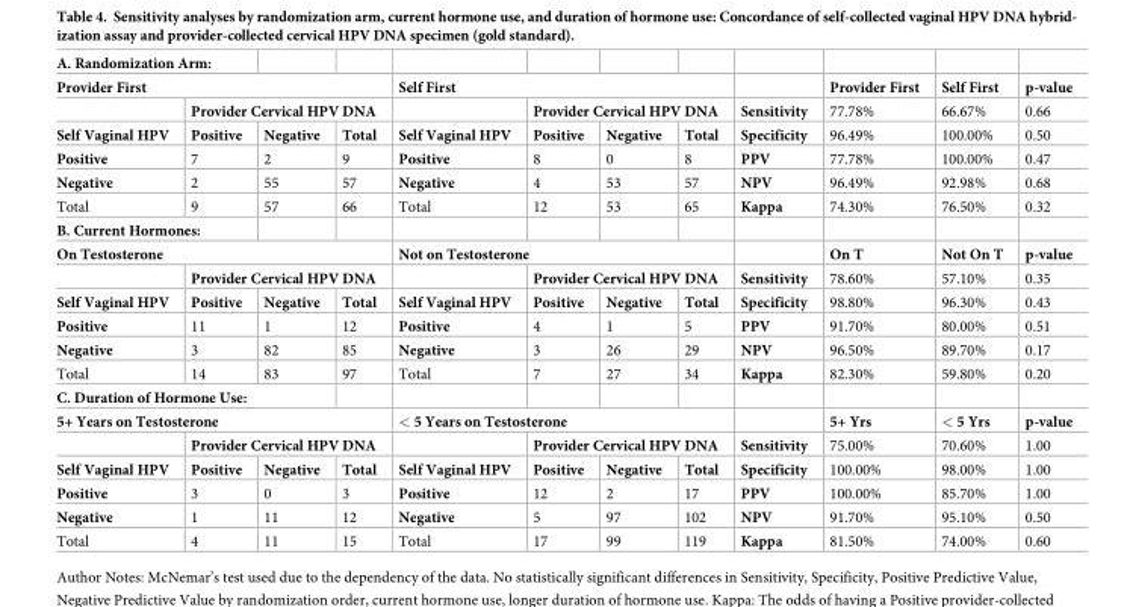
<table><tbody><tr><td colspan="12">A. Randomization Arm:</td></tr><tr><td colspan="4">Provider First</td><td colspan="4">Self First</td><td></td><td>Provider First</td><td>Self First</td><td>p-value</td></tr><tr><td></td><td colspan="3">Provider Cervical HPV DNA</td><td></td><td colspan="3">Provider Cervical HPV DNA</td><td>Sensitivity</td><td>77.78%</td><td>66.67%</td><td>0.66</td></tr><tr><td>Self Vaginal HPV</td><td>Positive</td><td>Negative</td><td>Total</td><td>Self Vaginal HPV</td><td>Positive</td><td>Negative</td><td>Total</td><td>Specificity</td><td>96.49%</td><td>100.00%</td><td>0.50</td></tr><tr><td>Positive</td><td>7</td><td>2</td><td>9</td><td>Positive</td><td>8</td><td>0</td><td>8</td><td>PPV</td><td>77.78%</td><td>100.00%</td><td>0.47</td></tr><tr><td>Negative</td><td>2</td><td>55</td><td>57</td><td>Negative</td><td>4</td><td>53</td><td>57</td><td>NPV</td><td>96.49%</td><td>92.98%</td><td>0.68</td></tr><tr><td>Total</td><td>9</td><td>57</td><td>66</td><td>Total</td><td>12</td><td>53</td><td>65</td><td>Kappa</td><td>74.30%</td><td>76.50%</td><td>0.32</td></tr><tr><td colspan="12">B. Current Hormones:</td></tr><tr><td colspan="4">On Testosterone</td><td colspan="4">Not on Testosterone</td><td></td><td>On T</td><td>Not On T</td><td>p-value</td></tr><tr><td></td><td colspan="3">Provider Cervical HPV DNA</td><td></td><td colspan="3">Provider Cervical HPV DNA</td><td>Sensitivity</td><td>78.60%</td><td>57.10%</td><td>0.35</td></tr><tr><td>Self Vaginal HPV</td><td>Positive</td><td>Negative</td><td>Total</td><td>Self Vaginal HPV</td><td>Positive</td><td>Negative</td><td>Total</td><td>Specificity</td><td>98.80%</td><td>96.30%</td><td>0.43</td></tr><tr><td>Positive</td><td>11</td><td>1</td><td>12</td><td>Positive</td><td>4</td><td>1</td><td>5</td><td>PPV</td><td>91.70%</td><td>80.00%</td><td>0.51</td></tr><tr><td>Negative</td><td>3</td><td>82</td><td>85</td><td>Negative</td><td>3</td><td>26</td><td>29</td><td>NPV</td><td>96.50%</td><td>89.70%</td><td>0.17</td></tr><tr><td>Total</td><td>14</td><td>83</td><td>97</td><td>Total</td><td>7</td><td>27</td><td>34</td><td>Kappa</td><td>82.30%</td><td>59.80%</td><td>0.20</td></tr><tr><td colspan="12">C. Duration of Hormone Use:</td></tr><tr><td colspan="4">5+ Years on Testosterone</td><td colspan="4">&lt; 5 Years on Testosterone</td><td></td><td>5+ Yrs</td><td>&lt; 5 Yrs</td><td>p-value</td></tr><tr><td></td><td colspan="3">Provider Cervical HPV DNA</td><td></td><td colspan="3">Provider Cervical HPV DNA</td><td>Sensitivity</td><td>75.00%</td><td>70.60%</td><td>1.00</td></tr><tr><td>Self Vaginal HPV</td><td>Positive</td><td>Negative</td><td>Total</td><td>Self Vaginal HPV</td><td>Positive</td><td>Negative</td><td>Total</td><td>Specificity</td><td>100.00%</td><td>98.00%</td><td>1.00</td></tr><tr><td>Positive</td><td>3</td><td>0</td><td>3</td><td>Positive</td><td>12</td><td>2</td><td>17</td><td>PPV</td><td>100.00%</td><td>85.70%</td><td>1.00</td></tr><tr><td>Negative</td><td>1</td><td>11</td><td>12</td><td>Negative</td><td>5</td><td>97</td><td>102</td><td>NPV</td><td>91.70%</td><td>95.10%</td><td>0.50</td></tr><tr><td>Total</td><td>4</td><td>11</td><td>15</td><td>Total</td><td>17</td><td>99</td><td>119</td><td>Kappa</td><td>81.50%</td><td>74.00%</td><td>0.60</td></tr></tbody></table>